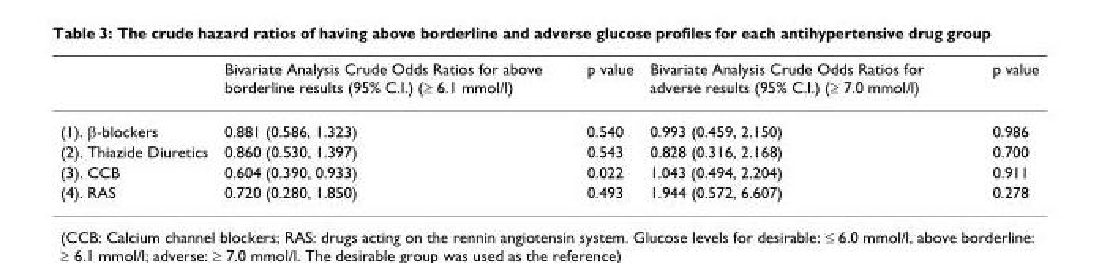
<table><thead><tr><td></td><td>Bivariate Analysis Crude Odds Ratios for above borderline results (95% C.I.) (≥ 6.1 mmol/l)</td><td>p value</td><td>Bivariate Analysis Crude Odds Ratios for adverse results (95% C.I.) (≥ 7.0 mmol/l)</td><td>p value</td></tr></thead><tbody><tr><td>(1). β-blockers</td><td>0.881 (0.586, 1.323)</td><td>0.540</td><td>0.993 (0.459, 2.150)</td><td>0.986</td></tr><tr><td>(2). Thiazide Diuretics</td><td>0.860 (0.530, 1.397)</td><td>0.543</td><td>0.828 (0.316, 2.168)</td><td>0.700</td></tr><tr><td>(3). CCB</td><td>0.604 (0.390, 0.933)</td><td>0.022</td><td>1.043 (0.494, 2.204)</td><td>0.911</td></tr><tr><td>(4). RAS</td><td>0.720 (0.280, 1.850)</td><td>0.493</td><td>1.944 (0.572, 6.607)</td><td>0.278</td></tr></tbody></table>